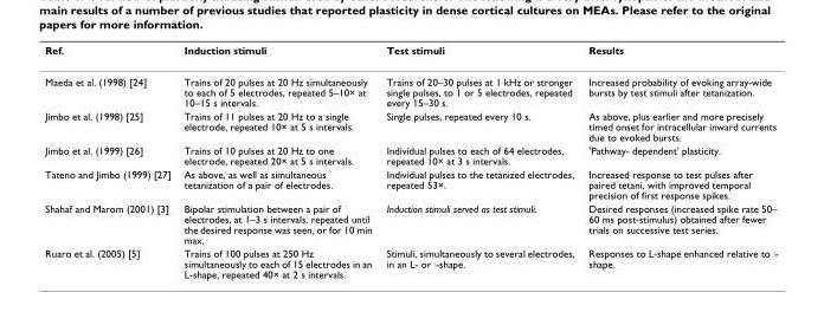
<table><thead><tr><td>Ref.</td><td>Induction stimuli</td><td>Test stimuli</td><td>Results</td></tr></thead><tbody><tr><td>Maeda et al. (1998) [24]</td><td>Trains of 20 pulses at 20 Hz simultaneously to each of 5 electrodes, repeated 5–10× at 10–15 s intervals.</td><td>Trains of 20–30 pulses at 1 kHz or stronger single pulses, to 1 or 5 electrodes, repeated every 15–30 s.</td><td>Increased probability of evoking array-wide bursts by test stimuli after tetanization.</td></tr><tr><td>Jimbo et al. (1998) [25]</td><td>Trains of 11 pulses at 20 Hz to a single electrode, repeated 10× at 5 s intervals.</td><td>Single pulses, repeated every 10 s.</td><td>As above, plus earlier and more precisely timed onset for intracellular inward currents due to evoked bursts.</td></tr><tr><td>Jimbo et al. (1999) [26]</td><td>Trains of 10 pulses at 20 Hz to one electrode, repeated 20× at 5 s intervals.</td><td>Individual pulses to each of 64 electrodes, repeated 10× at 3 s intervals.</td><td>&#x27;Pathway- dependent&#x27; plasticity.</td></tr><tr><td>Tateno and Jimbo (1999) [27]</td><td>As above, as well as simultaneous tetanization of a pair of electrodes.</td><td>Individual pulses to the tetanized electrodes, repeated 53×.</td><td>Increased response to test pulses after paired tetani, with improved temporal precision of first response spikes.</td></tr><tr><td>Shahaf and Marom (2001) [3]</td><td>Bipolar stimulation between a pair of electrodes, at 1–3 s intervals, repeated until the desired response was seen, or for 10 min max.</td><td>Induction stimuli served as test stimuli.</td><td>Desired responses (increased spike rate 50– 60 ms post-stimulus) obtained after fewer trials on successive test series.</td></tr><tr><td>Ruaro et al. (2005) [5]</td><td>Trains of 100 pulses at 250 Hz simultaneously to each of 15 electrodes in an L-shape, repeated 40× at 2 s intervals.</td><td>Stimuli, simultaneously to several electrodes, in an L- or ⌉-shape.</td><td>Responses to L-shape enhanced relative to ⌉- shape.</td></tr></tbody></table>